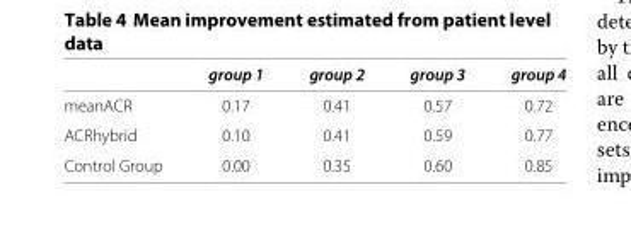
<table><thead><tr><td></td><td>group 1</td><td>group 2</td><td>group 3</td><td>group 4</td></tr></thead><tbody><tr><td>meanACR</td><td>0.17</td><td>0.41</td><td>0.57</td><td>0.72</td></tr><tr><td>ACRhybrid</td><td>0.10</td><td>0.41</td><td>0.59</td><td>0.77</td></tr><tr><td>Control Group</td><td>0.00</td><td>0.35</td><td>0.60</td><td>0.85</td></tr></tbody></table>